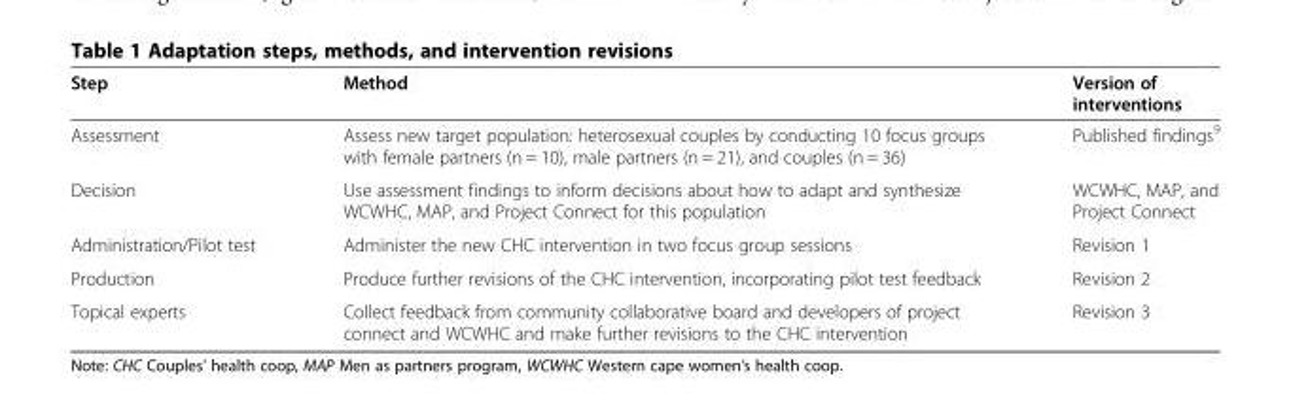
<table><thead><tr><td>Step</td><td>Method</td><td>Version of interventions</td></tr></thead><tbody><tr><td>Assessment</td><td>Assess new target population: heterosexual couples by conducting 10 focus groups with female partners (n = 10), male partners (n = 21), and couples (n = 36)</td><td>Published findings<sup>9</sup></td></tr><tr><td>Decision</td><td>Use assessment findings to inform decisions about how to adapt and synthesize WCWHC, MAP, and Project Connect for this population</td><td>WCWHC, MAP, and Project Connect</td></tr><tr><td>Administration/Pilot test</td><td>Administer the new CHC intervention in two focus group sessions</td><td>Revision 1</td></tr><tr><td>Production</td><td>Produce further revisions of the CHC intervention, incorporating pilot test feedback</td><td>Revision 2</td></tr><tr><td>Topical experts</td><td>Collect feedback from community collaborative board and developers of project connect and WCWHC and make further revisions to the CHC intervention</td><td>Revision 3</td></tr></tbody></table>